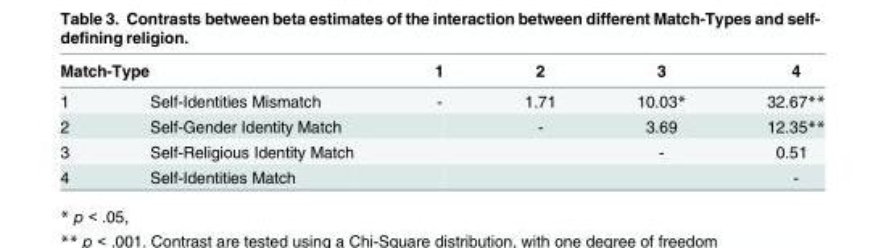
<table><thead><tr><td colspan="2">Match-Type</td><td rowspan="2">1 -</td><td rowspan="2">2 1.71</td><td rowspan="2">3 10.03*</td><td rowspan="2">4 32.67**</td></tr><tr><td>1</td><td>Self-Identities Mismatch</td></tr></thead><tbody><tr><td>2</td><td>Self-Gender Identity Match</td><td></td><td>-</td><td>3.69</td><td>12.35**</td></tr><tr><td>3</td><td>Self-Religious Identity Match</td><td></td><td></td><td>-</td><td>0.51</td></tr><tr><td>4</td><td>Self-Identities Match</td><td></td><td></td><td></td><td>-</td></tr></tbody></table>